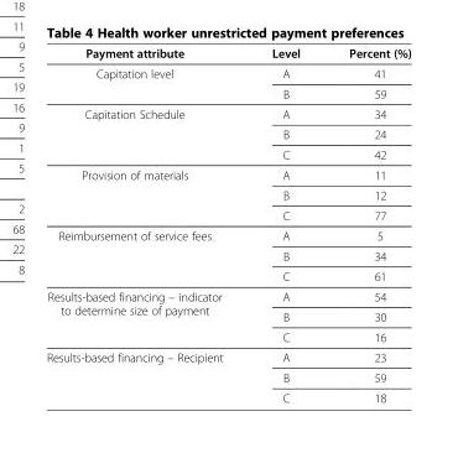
<table><thead><tr><td>Payment attribute</td><td>Level</td><td>Percent (%)</td></tr></thead><tbody><tr><td rowspan="2">Capitation level</td><td>A</td><td>41</td></tr><tr><td>B</td><td>59</td></tr><tr><td rowspan="3">Capitation Schedule</td><td>A</td><td>34</td></tr><tr><td>B</td><td>24</td></tr><tr><td>C</td><td>42</td></tr><tr><td rowspan="3">Provision of materials</td><td>A</td><td>11</td></tr><tr><td>B</td><td>12</td></tr><tr><td>C</td><td>77</td></tr><tr><td rowspan="3">Reimbursement of service fees</td><td>A</td><td>5</td></tr><tr><td>B</td><td>34</td></tr><tr><td>C</td><td>61</td></tr><tr><td rowspan="3">Results-based financing – indicator to determine size of payment</td><td>A</td><td>54</td></tr><tr><td>B</td><td>30</td></tr><tr><td>C</td><td>16</td></tr><tr><td rowspan="3">Results-based financing – Recipient</td><td>A</td><td>23</td></tr><tr><td>B</td><td>59</td></tr><tr><td>C</td><td>18</td></tr></tbody></table>